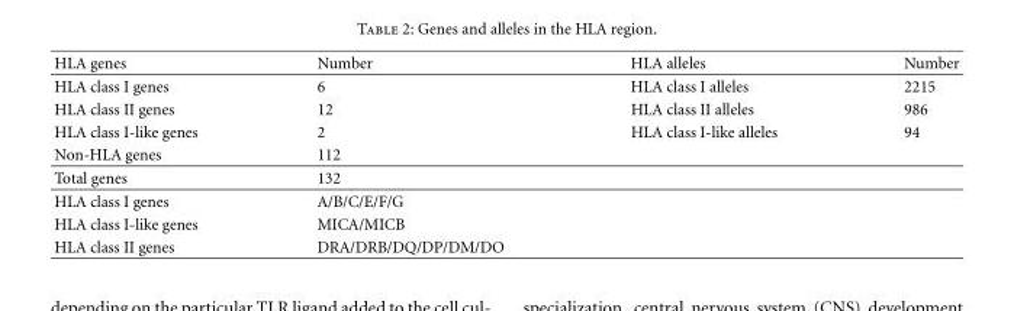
<table><thead><tr><td>HLA genes</td><td>Number</td><td>HLA alleles</td><td>Number</td></tr></thead><tbody><tr><td>HLA class I genes</td><td>6</td><td>HLA class I alleles</td><td>2215</td></tr><tr><td>HLA class II genes</td><td>12</td><td>HLA class II alleles</td><td>986</td></tr><tr><td>HLA class I-like genes</td><td>2</td><td>HLA class I-like alleles</td><td>94</td></tr><tr><td>Non-HLA genes</td><td>112</td><td></td><td></td></tr><tr><td>Total genes</td><td>132</td><td></td><td></td></tr><tr><td>HLA class I genes</td><td>A/B/C/E/F/G</td><td></td><td></td></tr><tr><td>HLA class I-like genes</td><td>MICA/MICB</td><td></td><td></td></tr><tr><td>HLA class II genes</td><td>DRA/DRB/DQ/DP/DM/DO</td><td></td><td></td></tr></tbody></table>